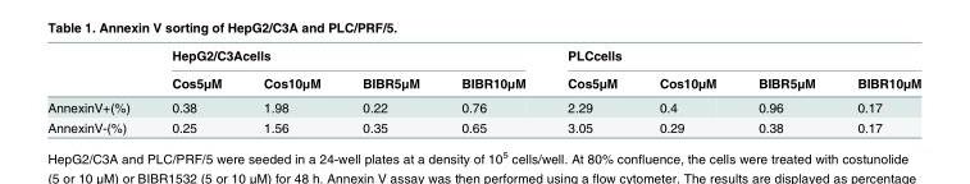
<table><thead><tr><td rowspan="2"></td><td colspan="4">HepG2/C3Acells</td><td colspan="4">PLCcells</td></tr><tr><td>Cos5μM</td><td>Cos10μM</td><td>BIBR5μM</td><td>BIBR10μM</td><td>Cos5μM</td><td>Cos10μM</td><td>BIBR5μM</td><td>BIBR10μM</td></tr></thead><tbody><tr><td>AnnexinV+(%)</td><td>0.38</td><td>1.98</td><td>0.22</td><td>0.76</td><td>2.29</td><td>0.4</td><td>0.96</td><td>0.17</td></tr><tr><td>AnnexinV-(%)</td><td>0.25</td><td>1.56</td><td>0.35</td><td>0.65</td><td>3.05</td><td>0.29</td><td>0.38</td><td>0.17</td></tr></tbody></table>